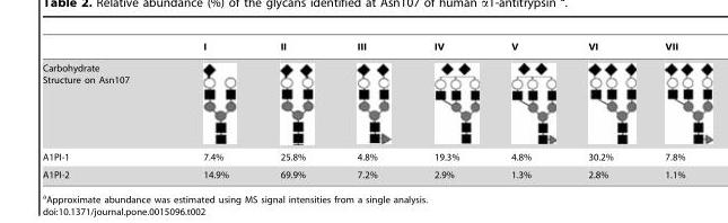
<table><thead><tr><td></td><td>I</td><td>II</td><td>III</td><td>IV</td><td>V</td><td>VI</td><td>VII</td></tr></thead><tbody><tr><td colspan="8">Carbohydrate Structure on Asn107</td></tr><tr><td>A1PI-1</td><td>7.4%</td><td>25.8%</td><td>4.8%</td><td>19.3%</td><td>4.8%</td><td>30.2%</td><td>7.8%</td></tr><tr><td>A1PI-2</td><td>14.9%</td><td>69.9%</td><td>7.2%</td><td>2.9%</td><td>1.3%</td><td>2.8%</td><td>1.1%</td></tr></tbody></table>